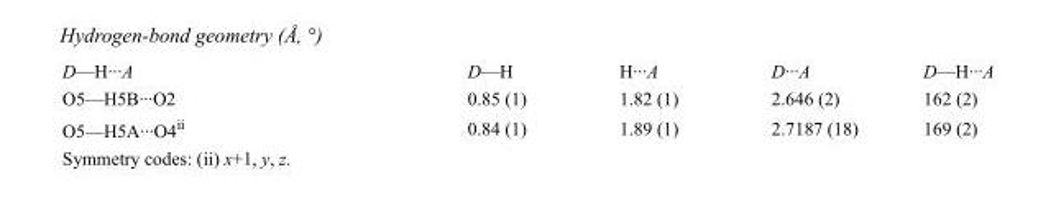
<table><tbody><tr><td>D—H···A</td><td>D—H</td><td>H···A</td><td>D···A</td><td>D—H···A</td></tr><tr><td>O5—H5B···O2</td><td>0.85 (1)</td><td>1.82 (1)</td><td>2.646 (2)</td><td>162 (2)</td></tr><tr><td>O5—H5A···O4<sup>ii</sup></td><td>0.84 (1)</td><td>1.89 (1)</td><td>2.7187 (18)</td><td>169 (2)</td></tr></tbody></table>